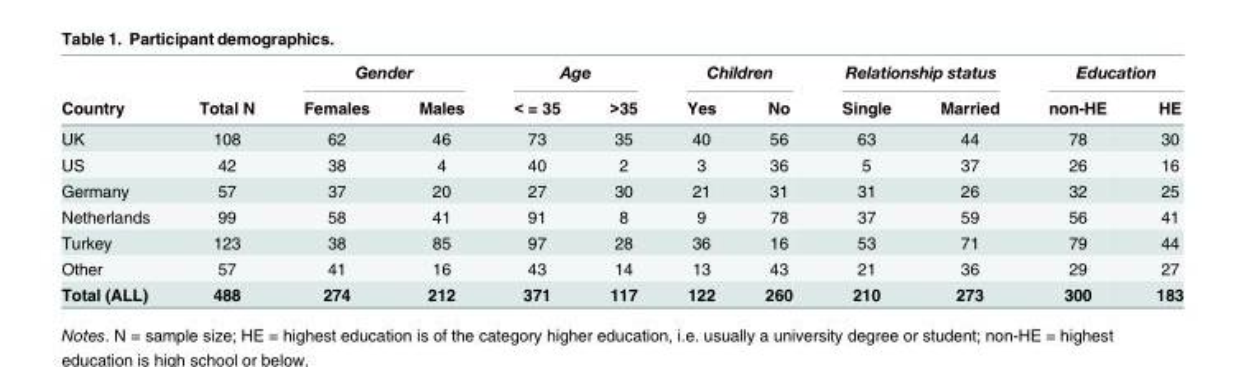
<table><thead><tr><td rowspan="2">Country</td><td rowspan="2">Total N</td><td colspan="2">Gender</td><td colspan="2">Age</td><td colspan="2">Children</td><td colspan="2">Relationship status</td><td colspan="2">Education</td></tr><tr><td>Females</td><td>Males</td><td>&lt; = 35</td><td>&gt;35</td><td>Yes</td><td>No</td><td>Single</td><td>Married</td><td>non-HE</td><td>HE</td></tr></thead><tbody><tr><td>UK</td><td>108</td><td>62</td><td>46</td><td>73</td><td>35</td><td>40</td><td>56</td><td>63</td><td>44</td><td>78</td><td>30</td></tr><tr><td>US</td><td>42</td><td>38</td><td>4</td><td>40</td><td>2</td><td>3</td><td>36</td><td>5</td><td>37</td><td>26</td><td>16</td></tr><tr><td>Germany</td><td>57</td><td>37</td><td>20</td><td>27</td><td>30</td><td>21</td><td>31</td><td>31</td><td>26</td><td>32</td><td>25</td></tr><tr><td>Netherlands</td><td>99</td><td>58</td><td>41</td><td>91</td><td>8</td><td>9</td><td>78</td><td>37</td><td>59</td><td>56</td><td>41</td></tr><tr><td>Turkey</td><td>123</td><td>38</td><td>85</td><td>97</td><td>28</td><td>36</td><td>16</td><td>53</td><td>71</td><td>79</td><td>44</td></tr><tr><td>Other</td><td>57</td><td>41</td><td>16</td><td>43</td><td>14</td><td>13</td><td>43</td><td>21</td><td>36</td><td>29</td><td>27</td></tr><tr><td>Total (ALL)</td><td>488</td><td>274</td><td>212</td><td>371</td><td>117</td><td>122</td><td>260</td><td>210</td><td>273</td><td>300</td><td>183</td></tr></tbody></table>